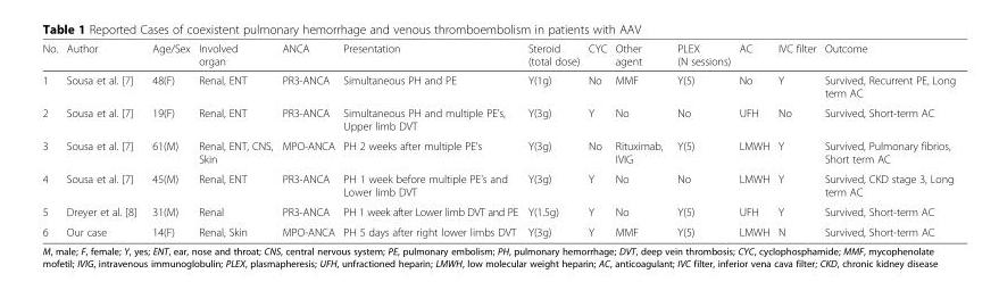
<table><thead><tr><td>No.</td><td>Author</td><td>Age/Sex</td><td>Involved organ</td><td>ANCA</td><td>Presentation</td><td>Steroid (total dose)</td><td>CYC</td><td>Other agent</td><td>PLEX (N sessions)</td><td>AC</td><td>IVC filter</td><td>Outcome</td></tr></thead><tbody><tr><td>1</td><td>Sousa et al. [7]</td><td>48(F)</td><td>Renal, ENT</td><td>PR3-ANCA</td><td>Simultaneous PH and PE</td><td>Y(1g)</td><td>No</td><td>MMF</td><td>Y(5)</td><td>No</td><td>Y</td><td>Survived, Recurrent PE, Long term AC</td></tr><tr><td>2</td><td>Sousa et al. [7]</td><td>19(F)</td><td>Renal, ENT</td><td>PR3-ANCA</td><td>Simultaneous PH and multiple PE’s, Upper limb DVT</td><td>Y(3g)</td><td>Y</td><td>No</td><td>No</td><td>UFH</td><td>No</td><td>Survived, Short-term AC</td></tr><tr><td>3</td><td>Sousa et al. [7]</td><td>61(M)</td><td>Renal, ENT, CNS, Skin</td><td>MPO-ANCA</td><td>PH 2 weeks after multiple PE’s</td><td>Y(3g)</td><td>No</td><td>Rituximab, IVIG</td><td>Y(5)</td><td>LMWH</td><td>Y</td><td>Survived, Pulmonary fibrios, Short term AC</td></tr><tr><td>4</td><td>Sousa et al. [7]</td><td>45(M)</td><td>Renal, ENT</td><td>PR3-ANCA</td><td>PH 1 week before multiple PE’s and Lower limb DVT</td><td>Y(3g)</td><td>Y</td><td>No</td><td>No</td><td>LMWH</td><td>Y</td><td>Survived, CKD stage 3, Long term AC</td></tr><tr><td>5</td><td>Dreyer et al. [8]</td><td>31(M)</td><td>Renal</td><td>PR3-ANCA</td><td>PH 1 week after Lower limb DVT and PE</td><td>Y(1.5g)</td><td>Y</td><td>No</td><td>Y(5)</td><td>UFH</td><td>Y</td><td>Survived, Short-term AC</td></tr><tr><td>6</td><td>Our case</td><td>14(F)</td><td>Renal, Skin</td><td>MPO-ANCA</td><td>PH 5 days after right lower limbs DVT</td><td>Y(3g)</td><td>Y</td><td>MMF</td><td>Y(5)</td><td>LMWH</td><td>N</td><td>Survived, Short-term AC</td></tr></tbody></table>